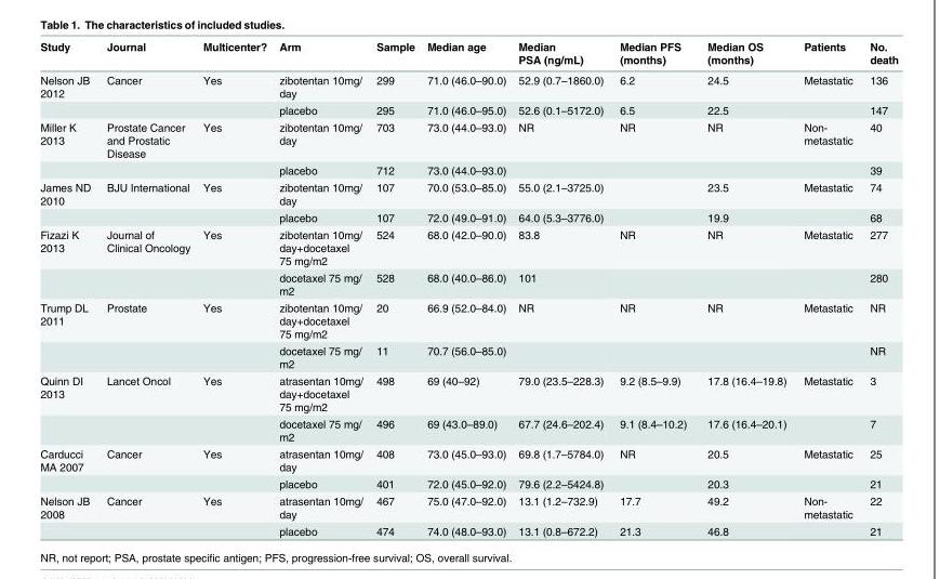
<table><thead><tr><td>Study</td><td>Journal</td><td>Multicenter?</td><td>Arm</td><td>Sample</td><td>Median age</td><td>Median PSA (ng/mL)</td><td>Median PFS (months)</td><td>Median OS (months)</td><td>Patients</td><td>No. death</td></tr></thead><tbody><tr><td rowspan="2">Nelson JB 2012</td><td>Cancer</td><td>Yes</td><td>zibotentan 10mg/ day</td><td>299</td><td>71.0 (46.0–90.0)</td><td>52.9 (0.7–1860.0)</td><td>6.2</td><td>24.5</td><td>Metastatic</td><td>136</td></tr><tr><td></td><td></td><td>placebo</td><td>295</td><td>71.0 (46.0–95.0)</td><td>52.6 (0.1–5172.0)</td><td>6.5</td><td>22.5</td><td></td><td>147</td></tr><tr><td rowspan="2">Miller K 2013</td><td>Prostate Cancer and Prostatic Disease</td><td>Yes</td><td>zibotentan 10mg/ day</td><td>703</td><td>73.0 (44.0–93.0)</td><td>NR</td><td>NR</td><td>NR</td><td>Non- metastatic</td><td>40</td></tr><tr><td></td><td></td><td>placebo</td><td>712</td><td>73.0 (44.0–93.0)</td><td></td><td></td><td></td><td></td><td>39</td></tr><tr><td rowspan="2">James ND 2010</td><td>BJU International</td><td>Yes</td><td>zibotentan 10mg/ day</td><td>107</td><td>70.0 (53.0–85.0)</td><td>55.0 (2.1–3725.0)</td><td></td><td>23.5</td><td>Metastatic</td><td>74</td></tr><tr><td></td><td></td><td>placebo</td><td>107</td><td>72.0 (49.0–91.0)</td><td>64.0 (5.3–3776.0)</td><td></td><td>19.9</td><td></td><td>68</td></tr><tr><td rowspan="2">Fizazi K 2013</td><td>Journal of Clinical Oncology</td><td>Yes</td><td>zibotentan 10mg/ day+docetaxel 75 mg/m2</td><td>524</td><td>68.0 (42.0–90.0)</td><td>83.8</td><td>NR</td><td>NR</td><td>Metastatic</td><td>277</td></tr><tr><td></td><td></td><td>docetaxel 75 mg/ m2</td><td>528</td><td>68.0 (40.0–86.0)</td><td>101</td><td></td><td></td><td></td><td>280</td></tr><tr><td rowspan="2">Trump DL 2011</td><td>Prostate</td><td>Yes</td><td>zibotentan 10mg/ day+docetaxel 75 mg/m2</td><td>20</td><td>66.9 (52.0–84.0)</td><td>NR</td><td>NR</td><td>NR</td><td>Metastatic</td><td>NR</td></tr><tr><td></td><td></td><td>docetaxel 75 mg/ m2</td><td>11</td><td>70.7 (56.0–85.0)</td><td></td><td></td><td></td><td></td><td>NR</td></tr><tr><td rowspan="2">Quinn DI 2013</td><td>Lancet Oncol</td><td>Yes</td><td>atrasentan 10mg/ day+docetaxel 75 mg/m2</td><td>498</td><td>69 (40–92)</td><td>79.0 (23.5–228.3)</td><td>9.2 (8.5–9.9)</td><td>17.8 (16.4–19.8)</td><td>Metastatic</td><td>3</td></tr><tr><td></td><td></td><td>docetaxel 75 mg/ m2</td><td>496</td><td>69 (43.0–89.0)</td><td>67.7 (24.6–202.4)</td><td>9.1 (8.4–10.2)</td><td>17.6 (16.4–20.1)</td><td></td><td>7</td></tr><tr><td rowspan="2">Carducci MA 2007</td><td>Cancer</td><td>Yes</td><td>atrasentan 10mg/ day</td><td>408</td><td>73.0 (45.0–93.0)</td><td>69.8 (1.7–5784.0)</td><td>NR</td><td>20.5</td><td>Metastatic</td><td>25</td></tr><tr><td></td><td></td><td>placebo</td><td>401</td><td>72.0 (45.0–92.0)</td><td>79.6 (2.2–5424.8)</td><td></td><td>20.3</td><td></td><td>21</td></tr><tr><td rowspan="2">Nelson JB 2008</td><td>Cancer</td><td>Yes</td><td>atrasentan 10mg/ day</td><td>467</td><td>75.0 (47.0–92.0)</td><td>13.1 (1.2–732.9)</td><td>17.7</td><td>49.2</td><td>Non- metastatic</td><td>22</td></tr><tr><td></td><td></td><td>placebo</td><td>474</td><td>74.0 (48.0–93.0)</td><td>13.1 (0.8–672.2)</td><td>21.3</td><td>46.8</td><td></td><td>21</td></tr></tbody></table>